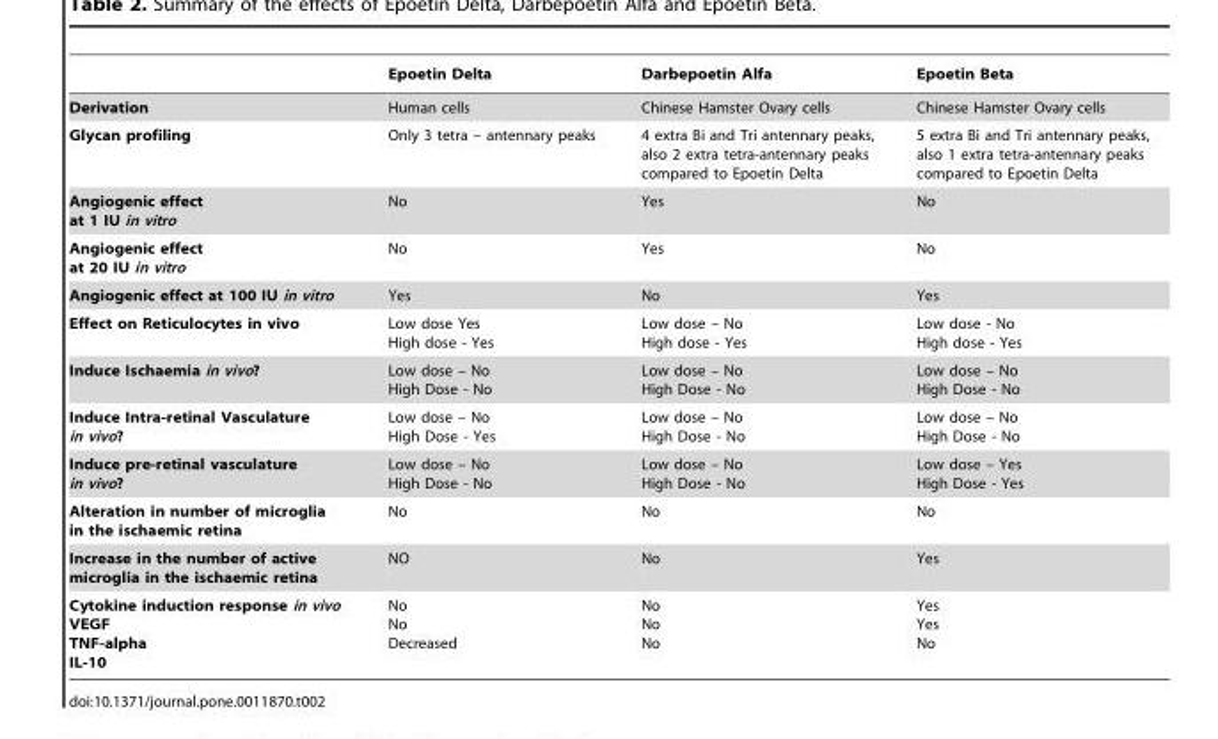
<table><thead><tr><td></td><td>Epoetin Delta</td><td>Darbepoetin Alfa</td><td>Epoetin Beta</td></tr></thead><tbody><tr><td>Derivation</td><td>Human cells</td><td>Chinese Hamster Ovary cells</td><td>Chinese Hamster Ovary cells</td></tr><tr><td>Glycan profiling</td><td>Only 3 tetra – antennary peaks</td><td>4 extra Bi and Tri antennary peaks, also 2 extra tetra-antennary peaks compared to Epoetin Delta</td><td>5 extra Bi and Tri antennary peaks, also 1 extra tetra-antennary peaks compared to Epoetin Delta</td></tr><tr><td>Angiogenic effect at 1 IU in vitro</td><td>No</td><td>Yes</td><td>No</td></tr><tr><td>Angiogenic effect at 20 IU in vitro</td><td>No</td><td>Yes</td><td>No</td></tr><tr><td>Angiogenic effect at 100 IU in vitro</td><td>Yes</td><td>No</td><td>Yes</td></tr><tr><td>Effect on Reticulocytes in vivo</td><td>Low dose Yes High dose - Yes</td><td>Low dose – No High dose - Yes</td><td>Low dose - No High dose - Yes</td></tr><tr><td>Induce Ischaemia in vivo?</td><td>Low dose – No High Dose - No</td><td>Low dose – No High Dose - No</td><td>Low dose – No High Dose - No</td></tr><tr><td>Induce Intra-retinal Vasculature in vivo?</td><td>Low dose – No High Dose - Yes</td><td>Low dose – No High Dose - No</td><td>Low dose – No High Dose - No</td></tr><tr><td>Induce pre-retinal vasculature in vivo?</td><td>Low dose – No High Dose - No</td><td>Low dose – No High Dose - No</td><td>Low dose – Yes High Dose - Yes</td></tr><tr><td>Alteration in number of microglia in the ischaemic retina</td><td>No</td><td>No</td><td>No</td></tr><tr><td>Increase in the number of active microglia in the ischaemic retina</td><td>NO</td><td>No</td><td>Yes</td></tr><tr><td>Cytokine induction response in vivo VEGF TNF-alpha IL-10</td><td>No No Decreased</td><td>No No No</td><td>Yes Yes No</td></tr></tbody></table>